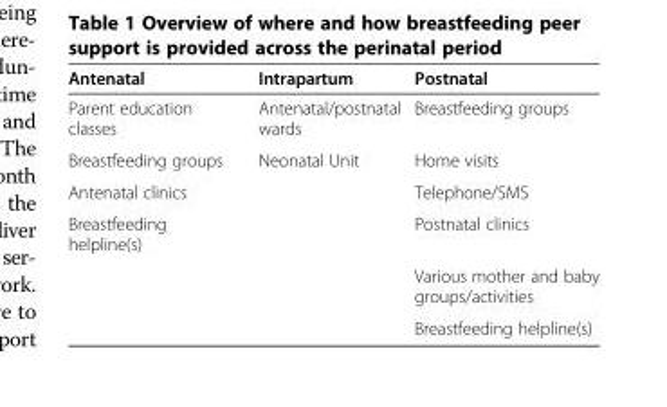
<table><thead><tr><td>Antenatal</td><td>Intrapartum</td><td>Postnatal</td></tr></thead><tbody><tr><td>Parent education classes</td><td>Antenatal/postnatal wards</td><td>Breastfeeding groups</td></tr><tr><td>Breastfeeding groups</td><td>Neonatal Unit</td><td>Home visits</td></tr><tr><td>Antenatal clinics</td><td></td><td>Telephone/SMS</td></tr><tr><td rowspan="3">Breastfeeding helpline(s)</td><td></td><td>Postnatal clinics</td></tr><tr><td rowspan="2"></td><td>Various mother and baby groups/activities</td></tr><tr><td>Breastfeeding helpline(s)</td></tr></tbody></table>